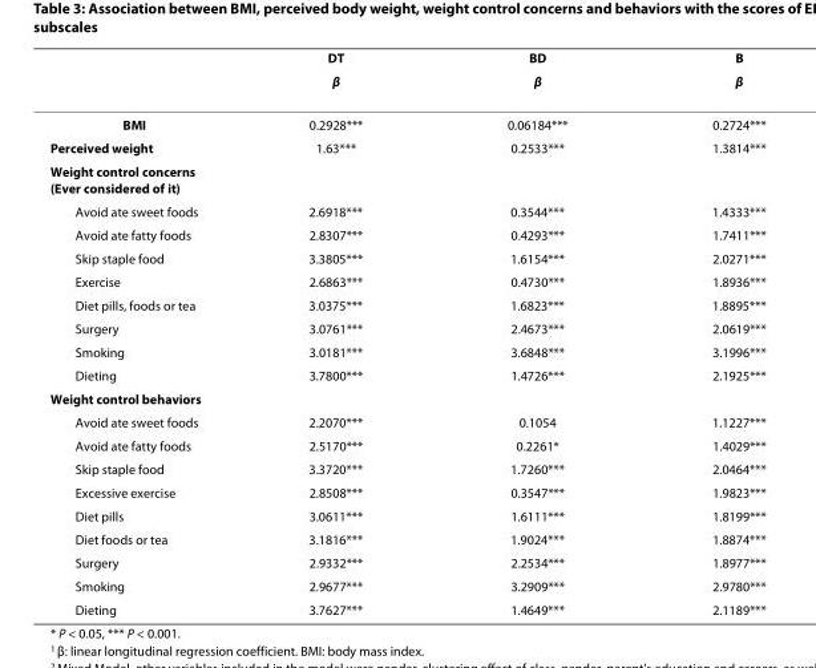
<table><thead><tr><td rowspan="2"></td><td rowspan="2">DT β</td><td rowspan="2">BD β</td><td rowspan="2">B β</td></tr><tr></tr></thead><tbody><tr><td>BMI</td><td>0.2928***</td><td>0.06184***</td><td>0.2724***</td></tr><tr><td>Perceived weight</td><td>1.63***</td><td>0.2533***</td><td>1.3814***</td></tr><tr><td colspan="4">Weight control concerns (Ever considered of it)</td></tr><tr><td>Avoid ate sweet foods</td><td>2.6918***</td><td>0.3544***</td><td>1.4333***</td></tr><tr><td>Avoid ate fatty foods</td><td>2.8307***</td><td>0.4293***</td><td>1.7411***</td></tr><tr><td>Skip staple food</td><td>3.3805***</td><td>1.6154***</td><td>2.0271***</td></tr><tr><td>Exercise</td><td>2.6863***</td><td>0.4730***</td><td>1.8936***</td></tr><tr><td>Diet pills, foods or tea</td><td>3.0375***</td><td>1.6823***</td><td>1.8895***</td></tr><tr><td>Surgery</td><td>3.0761***</td><td>2.4673***</td><td>2.0619***</td></tr><tr><td>Smoking</td><td>3.0181***</td><td>3.6848***</td><td>3.1996***</td></tr><tr><td>Dieting</td><td>3.7800***</td><td>1.4726***</td><td>2.1925***</td></tr><tr><td colspan="4">Weight control behaviors</td></tr><tr><td>Avoid ate sweet foods</td><td>2.2070***</td><td>0.1054</td><td>1.1227***</td></tr><tr><td>Avoid ate fatty foods</td><td>2.5170***</td><td>0.2261*</td><td>1.4029***</td></tr><tr><td>Skip staple food</td><td>3.3720***</td><td>1.7260***</td><td>2.0464***</td></tr><tr><td>Excessive exercise</td><td>2.8508***</td><td>0.3547***</td><td>1.9823***</td></tr><tr><td>Diet pills</td><td>3.0611***</td><td>1.6111***</td><td>1.8199***</td></tr><tr><td>Diet foods or tea</td><td>3.1816***</td><td>1.9024***</td><td>1.8874***</td></tr><tr><td>Surgery</td><td>2.9332***</td><td>2.2534***</td><td>1.8977***</td></tr><tr><td>Smoking</td><td>2.9677***</td><td>3.2909***</td><td>2.9780***</td></tr><tr><td>Dieting</td><td>3.7627***</td><td>1.4649***</td><td>2.1189***</td></tr></tbody></table>